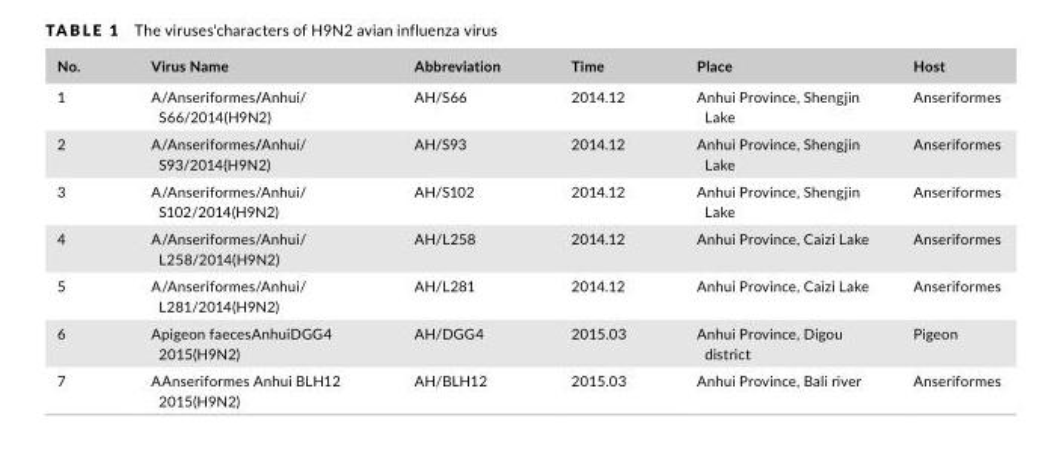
<table><thead><tr><td>No.</td><td>Virus Name</td><td>Abbreviation</td><td>Time</td><td>Place</td><td>Host</td></tr></thead><tbody><tr><td>1</td><td>A/Anseriformes/Anhui/ S66/2014(H9N2)</td><td>AH/S66</td><td>2014.12</td><td>Anhui Province, Shengjin Lake</td><td>Anseriformes</td></tr><tr><td>2</td><td>A/Anseriformes/Anhui/ S93/2014(H9N2)</td><td>AH/S93</td><td>2014.12</td><td>Anhui Province, Shengjin Lake</td><td>Anseriformes</td></tr><tr><td>3</td><td>A/Anseriformes/Anhui/ S102/2014(H9N2)</td><td>AH/S102</td><td>2014.12</td><td>Anhui Province, Shengjin Lake</td><td>Anseriformes</td></tr><tr><td>4</td><td>A/Anseriformes/Anhui/ L258/2014(H9N2)</td><td>AH/L258</td><td>2014.12</td><td>Anhui Province, Caizi Lake</td><td>Anseriformes</td></tr><tr><td>5</td><td>A/Anseriformes/Anhui/ L281/2014(H9N2)</td><td>AH/L281</td><td>2014.12</td><td>Anhui Province, Caizi Lake</td><td>Anseriformes</td></tr><tr><td>6</td><td>Apigeon faecesAnhuiDGG4 2015(H9N2)</td><td>AH/DGG4</td><td>2015.03</td><td>Anhui Province, Digou district</td><td>Pigeon</td></tr><tr><td>7</td><td>AAnseriformes Anhui BLH12 2015(H9N2)</td><td>AH/BLH12</td><td>2015.03</td><td>Anhui Province, Bali river</td><td>Anseriformes</td></tr></tbody></table>